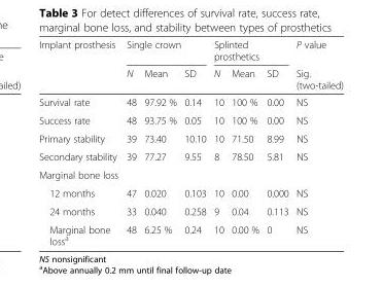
<table><thead><tr><td rowspan="2">Implant prosthesis</td><td colspan="3">Single crown</td><td colspan="3">Splinted prosthetics</td><td rowspan="2">P value Sig. (two-tailed)</td></tr><tr><td>N</td><td>Mean</td><td>SD</td><td>N</td><td>Mean</td><td>SD</td></tr></thead><tbody><tr><td>Survival rate</td><td>48</td><td>97.92 %</td><td>0.14</td><td>10</td><td>100 %</td><td>0.00</td><td>NS</td></tr><tr><td>Success rate</td><td>48</td><td>93.75 %</td><td>0.05</td><td>10</td><td>100 %</td><td>0.00</td><td>NS</td></tr><tr><td>Primary stability</td><td>39</td><td>73.40</td><td>10.10</td><td>10</td><td>71.50</td><td>8.99</td><td>NS</td></tr><tr><td>Secondary stability</td><td>39</td><td>77.27</td><td>9.55</td><td>8</td><td>78.50</td><td>5.81</td><td>NS</td></tr><tr><td colspan="8">Marginal bone loss</td></tr><tr><td>12 months</td><td>47</td><td>0.020</td><td>0.103</td><td>10</td><td>0.00</td><td>0.000</td><td>NS</td></tr><tr><td>24 months</td><td>33</td><td>0.040</td><td>0.258</td><td>9</td><td>0.04</td><td>0.113</td><td>NS</td></tr><tr><td>Marginal bone loss<sup>a</sup></td><td>48</td><td>6.25 %</td><td>0.24</td><td>10</td><td>0.00 %</td><td>0</td><td>NS</td></tr></tbody></table>